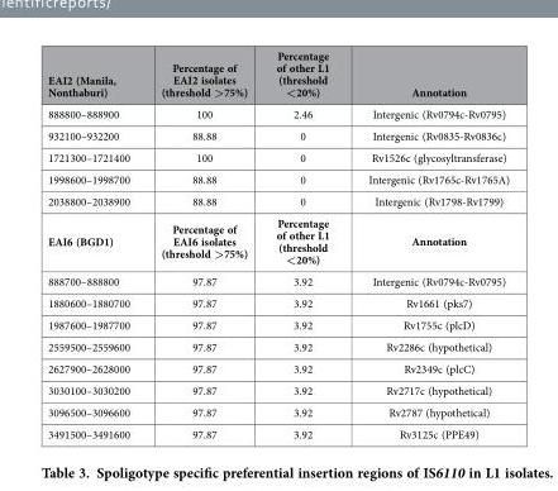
<table><thead><tr><td>EAI2 (Manila, Nonthaburi)</td><td>Percentage of EAI2 isolates (threshold &gt;75%)</td><td>Percentage of other L1 (threshold &lt;20%)</td><td>Annotation</td></tr></thead><tbody><tr><td>888800–888900</td><td>100</td><td>2.46</td><td>Intergenic (Rv0794c-Rv0795)</td></tr><tr><td>932100–932200</td><td>88.88</td><td>0</td><td>Intergenic (Rv0835-Rv0836c)</td></tr><tr><td>1721300–1721400</td><td>100</td><td>0</td><td>Rv1526c (glycosyltransferase)</td></tr><tr><td>1998600–1998700</td><td>88.88</td><td>0</td><td>Intergenic (Rv1765c-Rv1765A)</td></tr><tr><td>2038800–2038900</td><td>88.88</td><td>0</td><td>Intergenic (Rv1798-Rv1799)</td></tr><tr><td>EAI6 (BGD1)</td><td>Percentage of EAI6 isolates (threshold &gt;75%)</td><td>Percentage of other L1 (threshold &lt;20%)</td><td>Annotation</td></tr><tr><td>888700–888800</td><td>97.87</td><td>3.92</td><td>Intergenic (Rv0794c-Rv0795)</td></tr><tr><td>1880600–1880700</td><td>97.87</td><td>3.92</td><td>Rv1661 (pks7)</td></tr><tr><td>1987600–1987700</td><td>97.87</td><td>3.92</td><td>Rv1755c (plcD)</td></tr><tr><td>2559500–2559600</td><td>97.87</td><td>3.92</td><td>Rv2286c (hypothetical)</td></tr><tr><td>2627900–2628000</td><td>97.87</td><td>3.92</td><td>Rv2349c (plcC)</td></tr><tr><td>3030100–3030200</td><td>97.87</td><td>3.92</td><td>Rv2717c (hypothetical)</td></tr><tr><td>3096500–3096600</td><td>97.87</td><td>3.92</td><td>Rv2787 (hypothetical)</td></tr><tr><td>3491500–3491600</td><td>97.87</td><td>3.92</td><td>Rv3125c (PPE49)</td></tr></tbody></table>